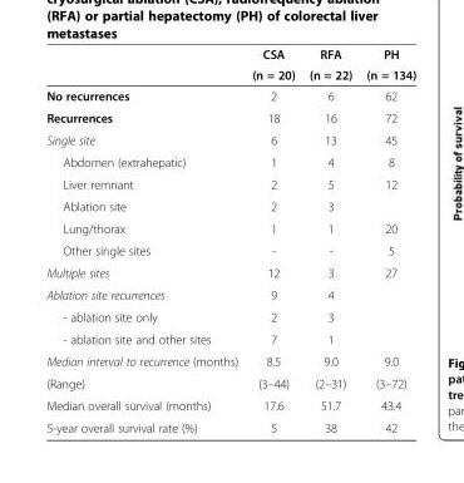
<table><thead><tr><td rowspan="2"></td><td rowspan="2">CSA (n = 20)</td><td rowspan="2">RFA (n = 22)</td><td rowspan="2">PH (n = 134)</td></tr><tr></tr></thead><tbody><tr><td>No recurrences</td><td>2</td><td>6</td><td>62</td></tr><tr><td>Recurrences</td><td>18</td><td>16</td><td>72</td></tr><tr><td>Single site</td><td>6</td><td>13</td><td>45</td></tr><tr><td>Abdomen (extrahepatic)</td><td>1</td><td>4</td><td>8</td></tr><tr><td>Liver remnant</td><td>2</td><td>5</td><td>12</td></tr><tr><td>Ablation site</td><td>2</td><td>3</td><td></td></tr><tr><td>Lung/thorax</td><td>1</td><td>1</td><td>20</td></tr><tr><td>Other single sites</td><td>-</td><td>-</td><td>5</td></tr><tr><td>Multiple sites</td><td>12</td><td>3</td><td>27</td></tr><tr><td>Ablation site recurrences</td><td>9</td><td>4</td><td rowspan="3"></td></tr><tr><td>- ablation site only</td><td>2</td><td>3</td></tr><tr><td>- ablation site and other sites</td><td>7</td><td>1</td></tr><tr><td>Median interval to recurrence (months)</td><td>8.5</td><td>9.0</td><td>9.0</td></tr><tr><td>(Range)</td><td>(3–44)</td><td>(2–31)</td><td>(3–72)</td></tr><tr><td>Median overall survival (months)</td><td>17.6</td><td>51.7</td><td>43.4</td></tr><tr><td>5-year overall survival rate (%)</td><td>5</td><td>38</td><td>42</td></tr></tbody></table>